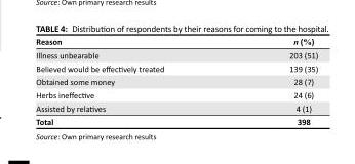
<table><thead><tr><td>Reason</td><td>n (%)</td></tr></thead><tbody><tr><td>Illness unbearable</td><td>203 (51)</td></tr><tr><td>Believed would be effectively treated</td><td>139 (35)</td></tr><tr><td>Obtained some money</td><td>28 (7)</td></tr><tr><td>Herbs ineffective</td><td>24 (6)</td></tr><tr><td>Assisted by relatives</td><td>4 (1)</td></tr><tr><td>Total</td><td>398</td></tr></tbody></table>